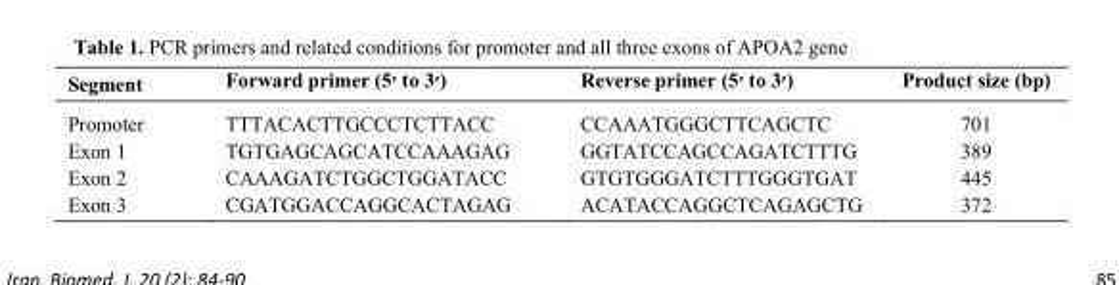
<table><thead><tr><td>Segment</td><td>Forward primer (5׳ to 3׳)</td><td>Reverse primer (5׳ to 3׳)</td><td>Product size (bp)</td></tr></thead><tbody><tr><td>Promoter</td><td>TTTACACTTGCCCTCTTACC</td><td>CCAAATGGGCTTCAGCTC</td><td>701</td></tr><tr><td>Exon 1</td><td>TGTGAGCAGCATCCAAAGAG</td><td>GGTATCCAGCCAGATCTTTG</td><td>389</td></tr><tr><td>Exon 2</td><td>CAAAGATCTGGCTGGATACC</td><td>GTGTGGGATCTTTGGGTGAT</td><td>445</td></tr><tr><td>Exon 3</td><td>CGATGGACCAGGCACTAGAG</td><td>ACATACCAGGCTCAGAGCTG</td><td>372</td></tr></tbody></table>